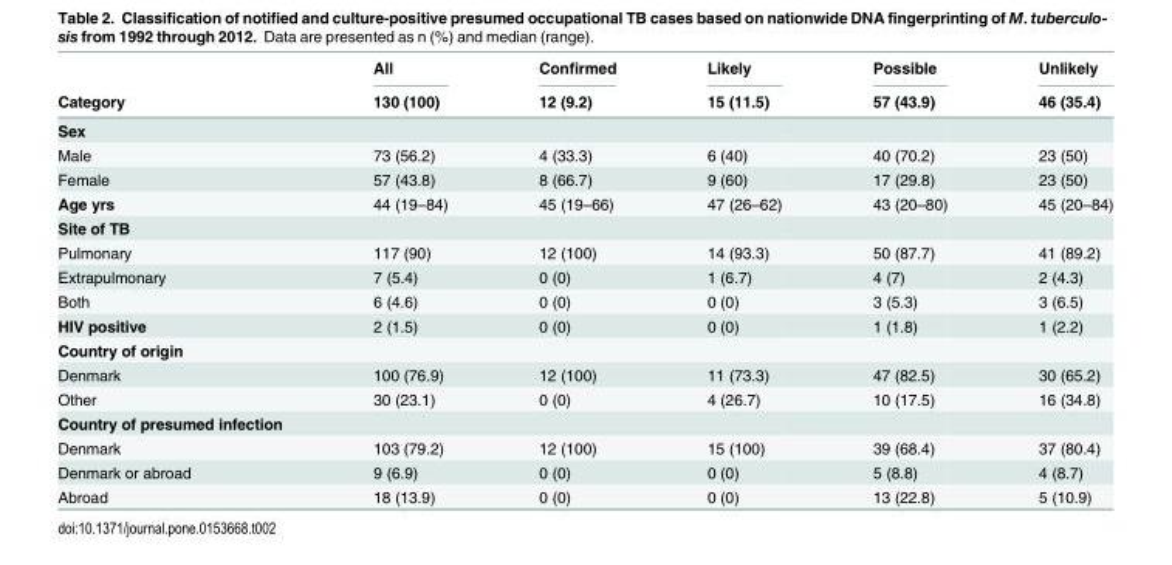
<table><thead><tr><td rowspan="2">Category</td><td rowspan="2">All 130 (100)</td><td rowspan="2">Confirmed 12 (9.2)</td><td rowspan="2">Likely 15 (11.5)</td><td rowspan="2">Possible 57 (43.9)</td><td rowspan="2">Unlikely 46 (35.4)</td></tr><tr></tr></thead><tbody><tr><td colspan="6">Sex</td></tr><tr><td>Male</td><td>73 (56.2)</td><td>4 (33.3)</td><td>6 (40)</td><td>40 (70.2)</td><td>23 (50)</td></tr><tr><td>Female</td><td>57 (43.8)</td><td>8 (66.7)</td><td>9 (60)</td><td>17 (29.8)</td><td>23 (50)</td></tr><tr><td>Age yrs</td><td>44 (19–84)</td><td>45 (19–66)</td><td>47 (26–62)</td><td>43 (20–80)</td><td>45 (20–84)</td></tr><tr><td colspan="6">Site of TB</td></tr><tr><td>Pulmonary</td><td>117 (90)</td><td>12 (100)</td><td>14 (93.3)</td><td>50 (87.7)</td><td>41 (89.2)</td></tr><tr><td>Extrapulmonary</td><td>7 (5.4)</td><td>0 (0)</td><td>1 (6.7)</td><td>4 (7)</td><td>2 (4.3)</td></tr><tr><td>Both</td><td>6 (4.6)</td><td>0 (0)</td><td>0 (0)</td><td>3 (5.3)</td><td>3 (6.5)</td></tr><tr><td>HIV positive</td><td>2 (1.5)</td><td>0 (0)</td><td>0 (0)</td><td>1 (1.8)</td><td>1 (2.2)</td></tr><tr><td colspan="6">Country of origin</td></tr><tr><td>Denmark</td><td>100 (76.9)</td><td>12 (100)</td><td>11 (73.3)</td><td>47 (82.5)</td><td>30 (65.2)</td></tr><tr><td>Other</td><td>30 (23.1)</td><td>0 (0)</td><td>4 (26.7)</td><td>10 (17.5)</td><td>16 (34.8)</td></tr><tr><td colspan="6">Country of presumed infection</td></tr><tr><td>Denmark</td><td>103 (79.2)</td><td>12 (100)</td><td>15 (100)</td><td>39 (68.4)</td><td>37 (80.4)</td></tr><tr><td>Denmark or abroad</td><td>9 (6.9)</td><td>0 (0)</td><td>0 (0)</td><td>5 (8.8)</td><td>4 (8.7)</td></tr><tr><td>Abroad</td><td>18 (13.9)</td><td>0 (0)</td><td>0 (0)</td><td>13 (22.8)</td><td>5 (10.9)</td></tr></tbody></table>